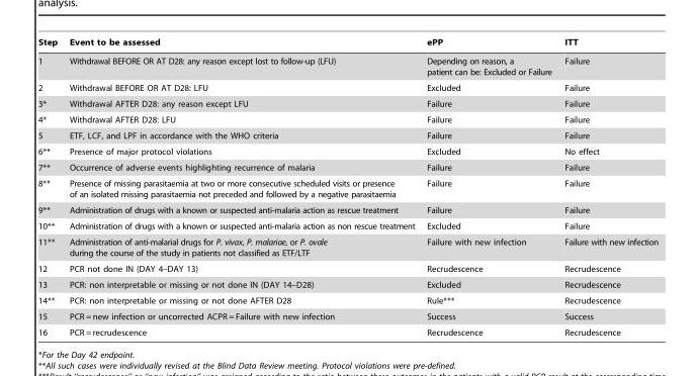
<table><thead><tr><td>Step</td><td>Event to be assessed</td><td>ePP</td><td>ITT</td></tr></thead><tbody><tr><td>1</td><td>Withdrawal BEFORE OR AT D28: any reason except lost to follow-up (LFU)</td><td>Depending on reason, a patient can be: Excluded or Failure</td><td>Failure</td></tr><tr><td>2</td><td>Withdrawal BEFORE OR AT D28: LFU</td><td>Excluded</td><td>Failure</td></tr><tr><td>3*</td><td>Withdrawal AFTER D28: any reason except LFU</td><td>Failure</td><td>Failure</td></tr><tr><td>4*</td><td>Withdrawal AFTER D28: LFU</td><td>Failure</td><td>Failure</td></tr><tr><td>5</td><td>ETF, LCF, and LPF in accordance with the WHO criteria</td><td>Failure</td><td>Failure</td></tr><tr><td>6**</td><td>Presence of major protocol violations</td><td>Excluded</td><td>No effect</td></tr><tr><td>7**</td><td>Occurrence of adverse events highlighting recurrence of malaria</td><td>Failure</td><td>Failure</td></tr><tr><td>8**</td><td>Presence of missing parasitaemia at two or more consecutive scheduled visits or presence of an isolated missing parasitaemia not preceded and followed by a negative parasitaemia</td><td>Failure</td><td>Failure</td></tr><tr><td>9**</td><td>Administration of drugs with a known or suspected anti-malaria action as rescue treatment</td><td>Failure</td><td>Failure</td></tr><tr><td>10**</td><td>Administration of drugs with a known or suspected anti-malaria action as non rescue treatment</td><td>Excluded</td><td>Failure</td></tr><tr><td>11**</td><td>Administration of anti-malarial drugs for P. vivax, P. malariae, or P. ovale during the course of the study in patients not classified as ETF/LTF</td><td>Failure with new infection</td><td>Failure with new infection</td></tr><tr><td>12</td><td>PCR not done IN (DAY 4–DAY 13)</td><td>Recrudescence</td><td>Recrudescence</td></tr><tr><td>13</td><td>PCR: non interpretable or missing or not done IN (DAY 14–D28)</td><td>Excluded</td><td>Recrudescence</td></tr><tr><td>14**</td><td>PCR: non interpretable or missing or not done AFTER D28</td><td>Rule***</td><td>Recrudescence</td></tr><tr><td>15</td><td>PCR = new infection or uncorrected ACPR = Failure with new infection</td><td>Success</td><td>Success</td></tr><tr><td>16</td><td>PCR = recrudescence</td><td>Recrudescence</td><td>Recrudescence</td></tr></tbody></table>